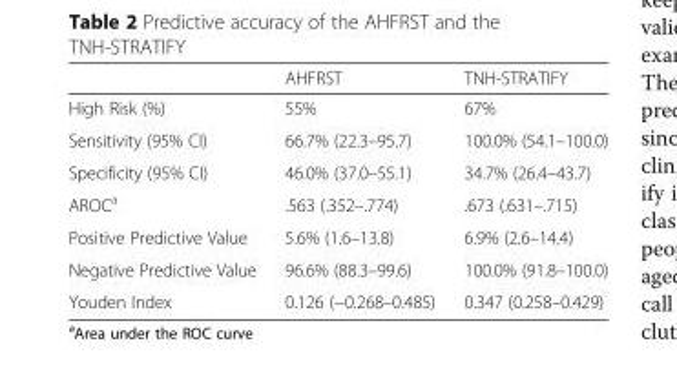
<table><thead><tr><td></td><td>AHFRST</td><td>TNH-STRATIFY</td></tr></thead><tbody><tr><td>High Risk (%)</td><td>55%</td><td>67%</td></tr><tr><td>Sensitivity (95% CI)</td><td>66.7% (22.3–95.7)</td><td>100.0% (54.1–100.0)</td></tr><tr><td>Specificity (95% CI)</td><td>46.0% (37.0–55.1)</td><td>34.7% (26.4–43.7)</td></tr><tr><td>AROC<sup>a</sup></td><td>.563 (.352–.774)</td><td>.673 (.631–.715)</td></tr><tr><td>Positive Predictive Value</td><td>5.6% (1.6–13.8)</td><td>6.9% (2.6–14.4)</td></tr><tr><td>Negative Predictive Value</td><td>96.6% (88.3–99.6)</td><td>100.0% (91.8–100.0)</td></tr><tr><td>Youden Index</td><td>0.126 (−0.268–0.485)</td><td>0.347 (0.258–0.429)</td></tr></tbody></table>